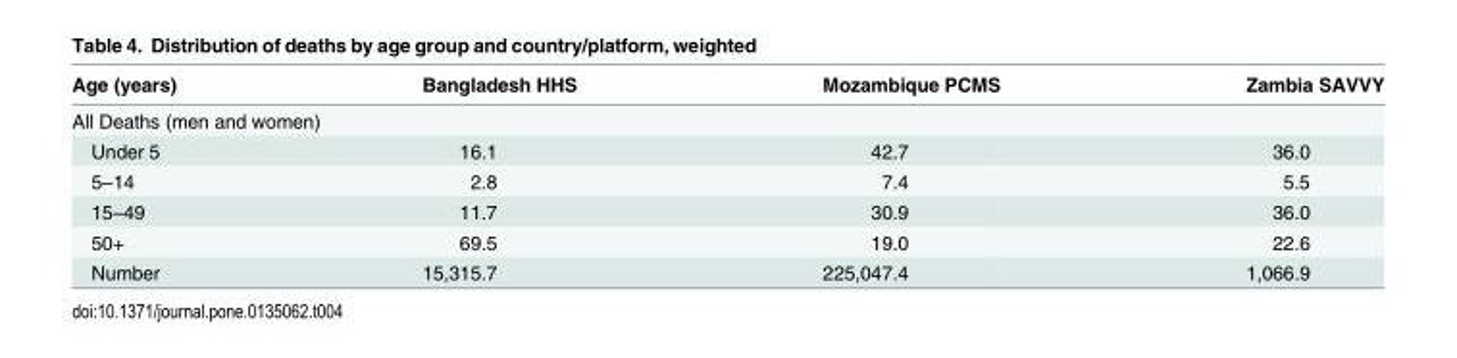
<table><thead><tr><td>Age (years)</td><td>Bangladesh HHS</td><td>Mozambique PCMS</td><td>Zambia SAVVY</td></tr></thead><tbody><tr><td colspan="4">All Deaths (men and women)</td></tr><tr><td>Under 5</td><td>16.1</td><td>42.7</td><td>36.0</td></tr><tr><td>5–14</td><td>2.8</td><td>7.4</td><td>5.5</td></tr><tr><td>15–49</td><td>11.7</td><td>30.9</td><td>36.0</td></tr><tr><td>50+</td><td>69.5</td><td>19.0</td><td>22.6</td></tr><tr><td>Number</td><td>15,315.7</td><td>225,047.4</td><td>1,066.9</td></tr></tbody></table>